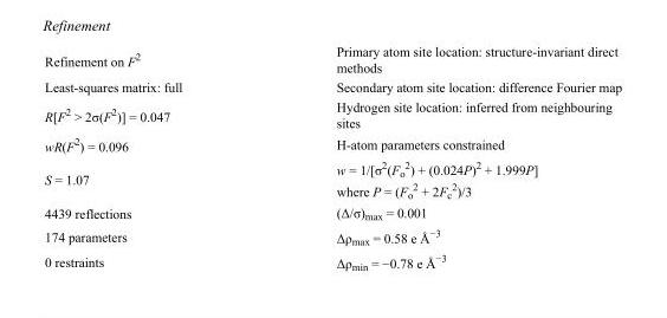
<table><tbody><tr><td>Refinement on F<sup>2</sup></td><td>Primary atom site location: structure-invariant direct methods</td></tr><tr><td>Least-squares matrix: full</td><td>Secondary atom site location: difference Fourier map</td></tr><tr><td>R[F<sup>2</sup> &gt; 2σ(F<sup>2</sup>)] = 0.047</td><td>Hydrogen site location: inferred from neighbouring sites</td></tr><tr><td>wR(F<sup>2</sup>) = 0.096</td><td>H-atom parameters constrained</td></tr><tr><td>S = 1.07</td><td>w = 1/[σ<sup>2</sup>(F<sub>o</sub> <sup>2</sup>) + (0.024P)<sup>2</sup> + 1.999P] where P = (F<sub>o</sub> <sup>2</sup> + 2F<sub>c</sub> <sup>2</sup>)/3</td></tr><tr><td>4439 reflections</td><td>(Δ/σ)<sub>max</sub> = 0.001</td></tr><tr><td>174 parameters</td><td>Δρ<sub>max</sub> = 0.58 e Å<sup>−3</sup></td></tr><tr><td>0 restraints</td><td>Δρ<sub>min</sub> = −0.78 e Å<sup>−3</sup></td></tr></tbody></table>